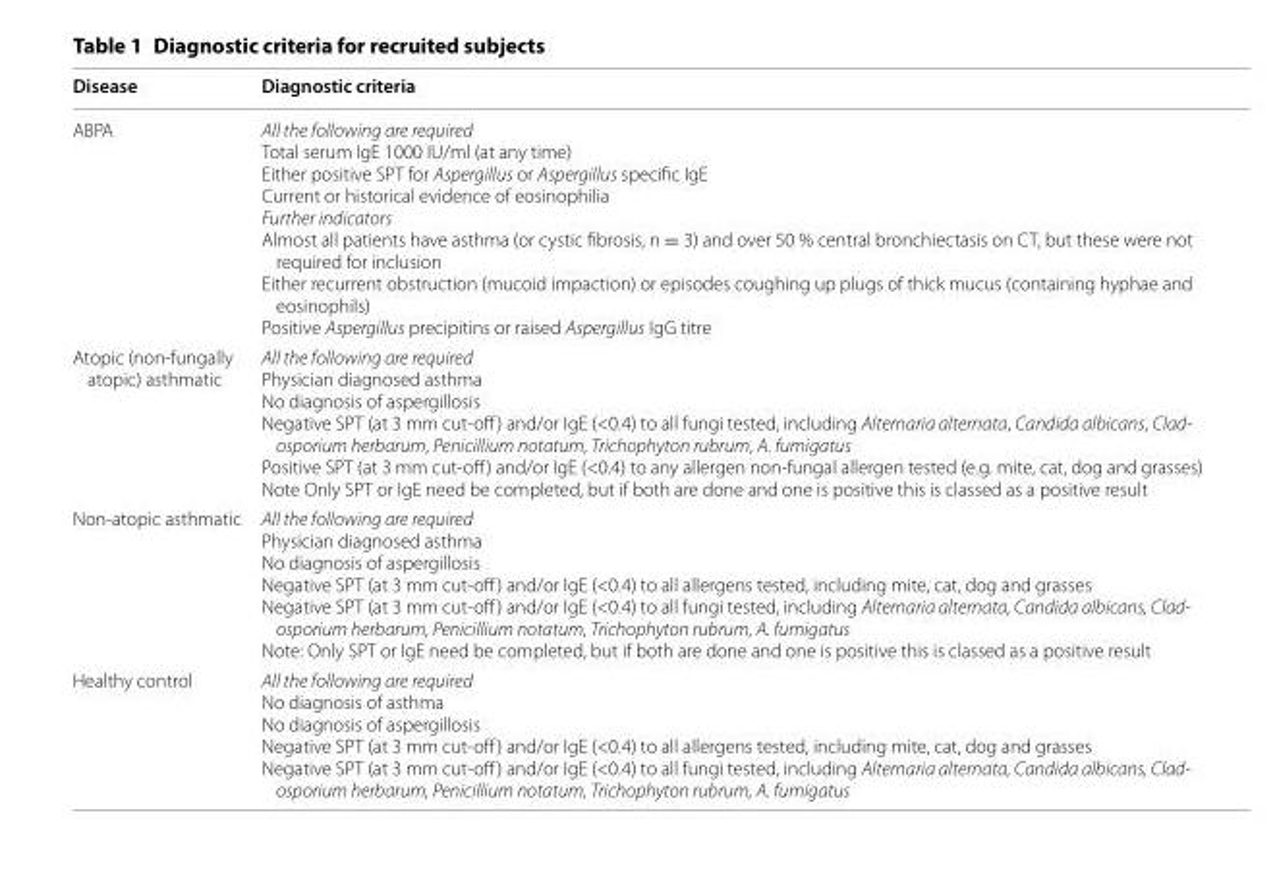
<table><thead><tr><td>Disease</td><td>Diagnostic criteria</td></tr></thead><tbody><tr><td>ABPA</td><td>All the following are required Total serum IgE 1000 IU/ml (at any time) Either positive SPT for Aspergillus or Aspergillus specific IgE Current or historical evidence of eosinophilia Further indicators Almost all patients have asthma (or cystic fibrosis, n = 3) and over 50 % central bronchiectasis on CT, but these were not required for inclusion Either recurrent obstruction (mucoid impaction) or episodes coughing up plugs of thick mucus (containing hyphae and eosinophils) Positive Aspergillus precipitins or raised Aspergillus IgG titre</td></tr><tr><td>Atopic (non-fungally atopic) asthmatic</td><td>All the following are required Physician diagnosed asthma No diagnosis of aspergillosis Negative SPT (at 3 mm cut-off) and/or IgE (&lt;0.4) to all fungi tested, including Alternaria alternata, Candida albicans, Clad- osporium herbarum, Penicillium notatum, Trichophyton rubrum, A. fumigatus Positive SPT (at 3 mm cut-off) and/or IgE (&lt;0.4) to any allergen non-fungal allergen tested (e.g. mite, cat, dog and grasses) Note Only SPT or IgE need be completed, but if both are done and one is positive this is classed as a positive result</td></tr><tr><td>Non-atopic asthmatic</td><td>All the following are required Physician diagnosed asthma No diagnosis of aspergillosis Negative SPT (at 3 mm cut-off) and/or IgE (&lt;0.4) to all allergens tested, including mite, cat, dog and grasses Negative SPT (at 3 mm cut-off) and/or IgE (&lt;0.4) to all fungi tested, including Alternaria alternata, Candida albicans, Clad- osporium herbarum, Penicillium notatum, Trichophyton rubrum, A. fumigatus Note: Only SPT or IgE need be completed, but if both are done and one is positive this is classed as a positive result</td></tr><tr><td>Healthy control</td><td>All the following are required No diagnosis of asthma No diagnosis of aspergillosis Negative SPT (at 3 mm cut-off) and/or IgE (&lt;0.4) to all allergens tested, including mite, cat, dog and grasses Negative SPT (at 3 mm cut-off) and/or IgE (&lt;0.4) to all fungi tested, including Alternaria alternata, Candida albicans, Clad- osporium herbarum, Penicillium notatum, Trichophyton rubrum, A. fumigatus</td></tr></tbody></table>